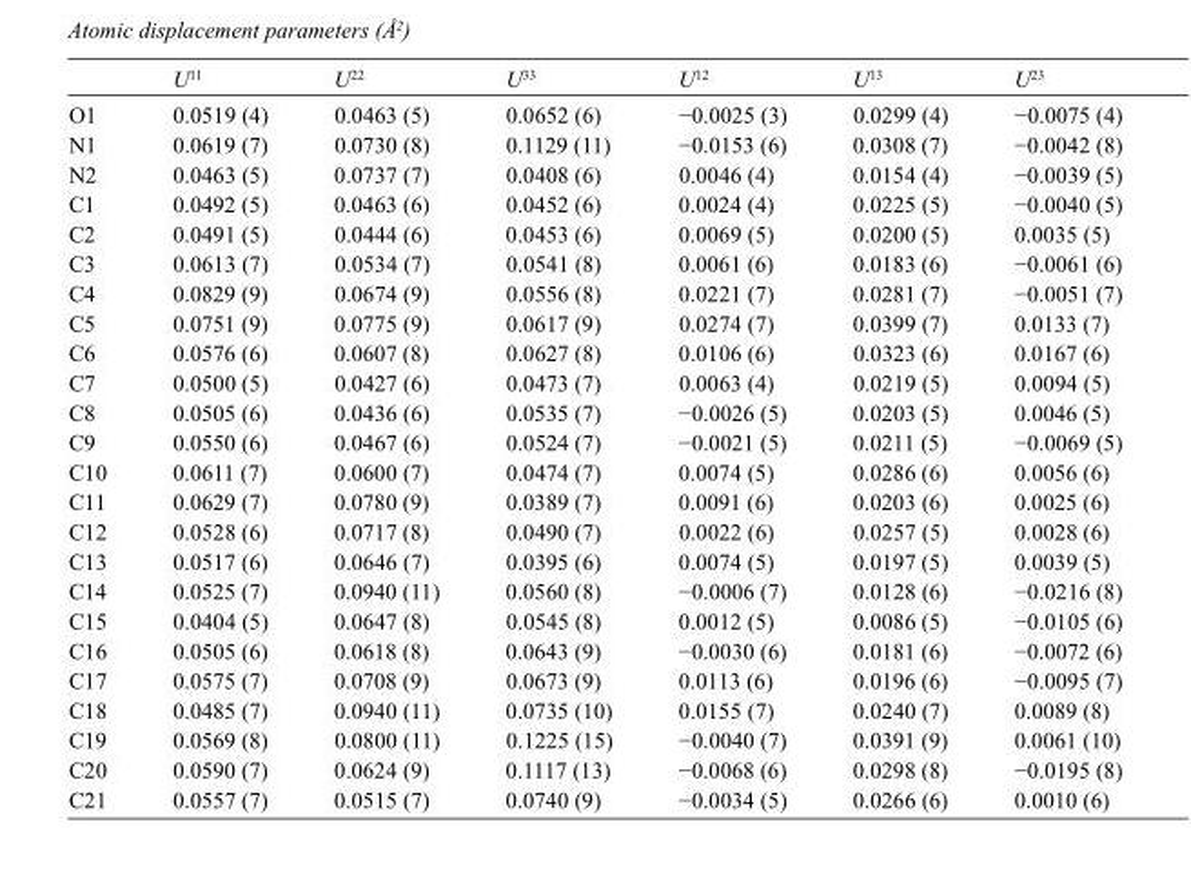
<table><thead><tr><td></td><td>U<sup>11</sup></td><td>U<sup>22</sup></td><td>U<sup>33</sup></td><td>U<sup>12</sup></td><td>U<sup>13</sup></td><td>U<sup>23</sup></td></tr></thead><tbody><tr><td>O1</td><td>0.0519 (4)</td><td>0.0463 (5)</td><td>0.0652 (6)</td><td>−0.0025 (3)</td><td>0.0299 (4)</td><td>−0.0075 (4)</td></tr><tr><td>N1</td><td>0.0619 (7)</td><td>0.0730 (8)</td><td>0.1129 (11)</td><td>−0.0153 (6)</td><td>0.0308 (7)</td><td>−0.0042 (8)</td></tr><tr><td>N2</td><td>0.0463 (5)</td><td>0.0737 (7)</td><td>0.0408 (6)</td><td>0.0046 (4)</td><td>0.0154 (4)</td><td>−0.0039 (5)</td></tr><tr><td>C1</td><td>0.0492 (5)</td><td>0.0463 (6)</td><td>0.0452 (6)</td><td>0.0024 (4)</td><td>0.0225 (5)</td><td>−0.0040 (5)</td></tr><tr><td>C2</td><td>0.0491 (5)</td><td>0.0444 (6)</td><td>0.0453 (6)</td><td>0.0069 (5)</td><td>0.0200 (5)</td><td>0.0035 (5)</td></tr><tr><td>C3</td><td>0.0613 (7)</td><td>0.0534 (7)</td><td>0.0541 (8)</td><td>0.0061 (6)</td><td>0.0183 (6)</td><td>−0.0061 (6)</td></tr><tr><td>C4</td><td>0.0829 (9)</td><td>0.0674 (9)</td><td>0.0556 (8)</td><td>0.0221 (7)</td><td>0.0281 (7)</td><td>−0.0051 (7)</td></tr><tr><td>C5</td><td>0.0751 (9)</td><td>0.0775 (9)</td><td>0.0617 (9)</td><td>0.0274 (7)</td><td>0.0399 (7)</td><td>0.0133 (7)</td></tr><tr><td>C6</td><td>0.0576 (6)</td><td>0.0607 (8)</td><td>0.0627 (8)</td><td>0.0106 (6)</td><td>0.0323 (6)</td><td>0.0167 (6)</td></tr><tr><td>C7</td><td>0.0500 (5)</td><td>0.0427 (6)</td><td>0.0473 (7)</td><td>0.0063 (4)</td><td>0.0219 (5)</td><td>0.0094 (5)</td></tr><tr><td>C8</td><td>0.0505 (6)</td><td>0.0436 (6)</td><td>0.0535 (7)</td><td>−0.0026 (5)</td><td>0.0203 (5)</td><td>0.0046 (5)</td></tr><tr><td>C9</td><td>0.0550 (6)</td><td>0.0467 (6)</td><td>0.0524 (7)</td><td>−0.0021 (5)</td><td>0.0211 (5)</td><td>−0.0069 (5)</td></tr><tr><td>C10</td><td>0.0611 (7)</td><td>0.0600 (7)</td><td>0.0474 (7)</td><td>0.0074 (5)</td><td>0.0286 (6)</td><td>0.0056 (6)</td></tr><tr><td>C11</td><td>0.0629 (7)</td><td>0.0780 (9)</td><td>0.0389 (7)</td><td>0.0091 (6)</td><td>0.0203 (6)</td><td>0.0025 (6)</td></tr><tr><td>C12</td><td>0.0528 (6)</td><td>0.0717 (8)</td><td>0.0490 (7)</td><td>0.0022 (6)</td><td>0.0257 (5)</td><td>0.0028 (6)</td></tr><tr><td>C13</td><td>0.0517 (6)</td><td>0.0646 (7)</td><td>0.0395 (6)</td><td>0.0074 (5)</td><td>0.0197 (5)</td><td>0.0039 (5)</td></tr><tr><td>C14</td><td>0.0525 (7)</td><td>0.0940 (11)</td><td>0.0560 (8)</td><td>−0.0006 (7)</td><td>0.0128 (6)</td><td>−0.0216 (8)</td></tr><tr><td>C15</td><td>0.0404 (5)</td><td>0.0647 (8)</td><td>0.0545 (8)</td><td>0.0012 (5)</td><td>0.0086 (5)</td><td>−0.0105 (6)</td></tr><tr><td>C16</td><td>0.0505 (6)</td><td>0.0618 (8)</td><td>0.0643 (9)</td><td>−0.0030 (6)</td><td>0.0181 (6)</td><td>−0.0072 (6)</td></tr><tr><td>C17</td><td>0.0575 (7)</td><td>0.0708 (9)</td><td>0.0673 (9)</td><td>0.0113 (6)</td><td>0.0196 (6)</td><td>−0.0095 (7)</td></tr><tr><td>C18</td><td>0.0485 (7)</td><td>0.0940 (11)</td><td>0.0735 (10)</td><td>0.0155 (7)</td><td>0.0240 (7)</td><td>0.0089 (8)</td></tr><tr><td>C19</td><td>0.0569 (8)</td><td>0.0800 (11)</td><td>0.1225 (15)</td><td>−0.0040 (7)</td><td>0.0391 (9)</td><td>0.0061 (10)</td></tr><tr><td>C20</td><td>0.0590 (7)</td><td>0.0624 (9)</td><td>0.1117 (13)</td><td>−0.0068 (6)</td><td>0.0298 (8)</td><td>−0.0195 (8)</td></tr><tr><td>C21</td><td>0.0557 (7)</td><td>0.0515 (7)</td><td>0.0740 (9)</td><td>−0.0034 (5)</td><td>0.0266 (6)</td><td>0.0010 (6)</td></tr></tbody></table>